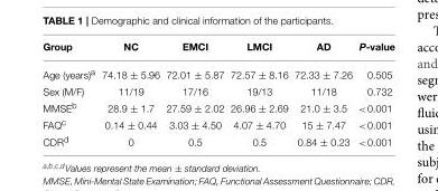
<table><thead><tr><td>Group</td><td>NC</td><td>EMCI</td><td>LMCI</td><td>AD</td><td>P-value</td></tr></thead><tbody><tr><td>Age (years)<sup>a</sup></td><td>74.18 ± 5.96</td><td>72.01 ± 5.87</td><td>72.57 ± 8.16</td><td>72.33 ± 7.26</td><td>0.505</td></tr><tr><td>Sex (M/F)</td><td>11/19</td><td>17/16</td><td>19/13</td><td>11/18</td><td>0.732</td></tr><tr><td>MMSE<sup>b</sup></td><td>28.9 ± 1.7</td><td>27.59 ± 2.02</td><td>26.96 ± 2.69</td><td>21.0 ± 3.5</td><td>&lt;0.001</td></tr><tr><td>FAQ<sup>c</sup></td><td>0.14 ± 0.44</td><td>3.03 ± 4.50</td><td>4.07 ± 4.70</td><td>15 ± 7.47</td><td>&lt;0.001</td></tr><tr><td>CDR<sup>d</sup></td><td>0</td><td>0.5</td><td>0.5</td><td>0.84 ± 0.23</td><td>&lt;0.001</td></tr></tbody></table>